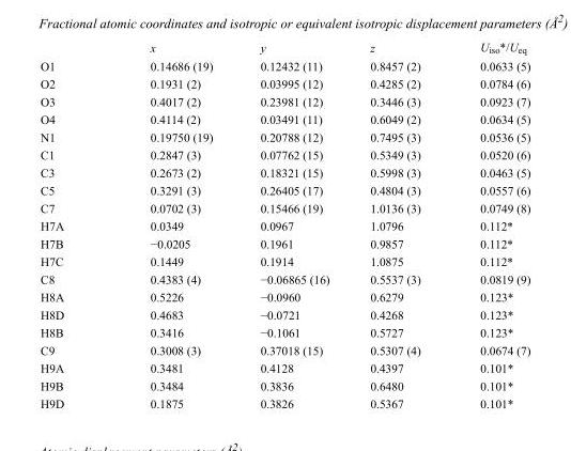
<table><thead><tr><td></td><td>x</td><td>y</td><td>z</td><td>U<sub>iso</sub>*/U<sub>eq</sub></td></tr></thead><tbody><tr><td>O1</td><td>0.14686 (19)</td><td>0.12432 (11)</td><td>0.8457 (2)</td><td>0.0633 (5)</td></tr><tr><td>O2</td><td>0.1931 (2)</td><td>0.03995 (12)</td><td>0.4285 (2)</td><td>0.0784 (6)</td></tr><tr><td>O3</td><td>0.4017 (2)</td><td>0.23981 (12)</td><td>0.3446 (3)</td><td>0.0923 (7)</td></tr><tr><td>O4</td><td>0.4114 (2)</td><td>0.03491 (11)</td><td>0.6049 (2)</td><td>0.0634 (5)</td></tr><tr><td>N1</td><td>0.19750 (19)</td><td>0.20788 (12)</td><td>0.7495 (3)</td><td>0.0536 (5)</td></tr><tr><td>C1</td><td>0.2847 (3)</td><td>0.07762 (15)</td><td>0.5349 (3)</td><td>0.0520 (6)</td></tr><tr><td>C3</td><td>0.2673 (2)</td><td>0.18321 (15)</td><td>0.5998 (3)</td><td>0.0463 (5)</td></tr><tr><td>C5</td><td>0.3291 (3)</td><td>0.26405 (17)</td><td>0.4804 (3)</td><td>0.0557 (6)</td></tr><tr><td>C7</td><td>0.0702 (3)</td><td>0.15466 (19)</td><td>1.0136 (3)</td><td>0.0749 (8)</td></tr><tr><td>H7A</td><td>0.0349</td><td>0.0967</td><td>1.0796</td><td>0.112*</td></tr><tr><td>H7B</td><td>−0.0205</td><td>0.1961</td><td>0.9857</td><td>0.112*</td></tr><tr><td>H7C</td><td>0.1449</td><td>0.1914</td><td>1.0875</td><td>0.112*</td></tr><tr><td>C8</td><td>0.4383 (4)</td><td>−0.06865 (16)</td><td>0.5537 (3)</td><td>0.0819 (9)</td></tr><tr><td>H8A</td><td>0.5226</td><td>−0.0960</td><td>0.6279</td><td>0.123*</td></tr><tr><td>H8D</td><td>0.4683</td><td>−0.0721</td><td>0.4268</td><td>0.123*</td></tr><tr><td>H8B</td><td>0.3416</td><td>−0.1061</td><td>0.5727</td><td>0.123*</td></tr><tr><td>C9</td><td>0.3008 (3)</td><td>0.37018 (15)</td><td>0.5307 (4)</td><td>0.0674 (7)</td></tr><tr><td>H9A</td><td>0.3481</td><td>0.4128</td><td>0.4397</td><td>0.101*</td></tr><tr><td>H9B</td><td>0.3484</td><td>0.3836</td><td>0.6480</td><td>0.101*</td></tr><tr><td>H9D</td><td>0.1875</td><td>0.3826</td><td>0.5367</td><td>0.101*</td></tr></tbody></table>